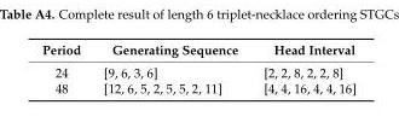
<table><thead><tr><td>Period</td><td>Generating Sequence</td><td>Head Interval</td></tr></thead><tbody><tr><td>24</td><td>[9, 6, 3, 6]</td><td>[2, 2, 8, 2, 2, 8]</td></tr><tr><td>48</td><td>[12, 6, 5, 2, 5, 5, 2, 11]</td><td>[4, 4, 16, 4, 4, 16]</td></tr></tbody></table>